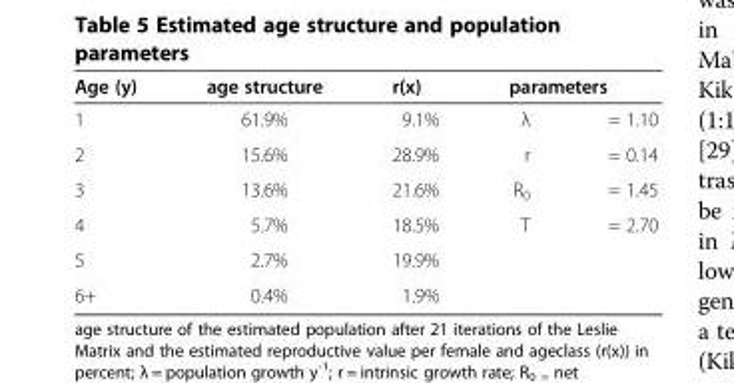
<table><thead><tr><td rowspan="2">Age (y) 1</td><td rowspan="2">age structure 61.9%</td><td rowspan="2">r(x) 9.1%</td><td colspan="2">parameters</td></tr><tr><td>λ</td><td>= 1.10</td></tr></thead><tbody><tr><td>2</td><td>15.6%</td><td>28.9%</td><td>r</td><td>= 0.14</td></tr><tr><td>3</td><td>13.6%</td><td>21.6%</td><td>R<sub>0</sub></td><td>= 1.45</td></tr><tr><td>4</td><td>5.7%</td><td>18.5%</td><td>T</td><td>= 2.70</td></tr><tr><td>5</td><td>2.7%</td><td>19.9%</td><td></td><td></td></tr><tr><td>6+</td><td>0.4%</td><td>1.9%</td><td></td><td></td></tr></tbody></table>